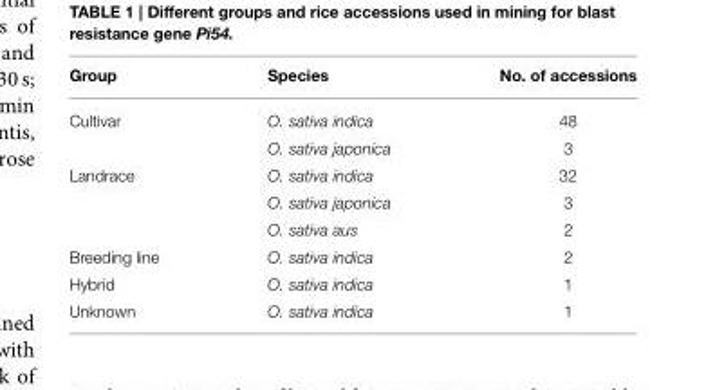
<table><thead><tr><td>Group</td><td>Species</td><td>No. of accessions</td></tr></thead><tbody><tr><td rowspan="2">Cultivar</td><td>O. sativa indica</td><td>48</td></tr><tr><td>O. sativa japonica</td><td>3</td></tr><tr><td rowspan="3">Landrace</td><td>O. sativa indica</td><td>32</td></tr><tr><td>O. sativa japonica</td><td>3</td></tr><tr><td>O. sativa aus</td><td>2</td></tr><tr><td>Breeding line</td><td>O. sativa indica</td><td>2</td></tr><tr><td>Hybrid</td><td>O. sativa indica</td><td>1</td></tr><tr><td>Unknown</td><td>O. sativa indica</td><td>1</td></tr></tbody></table>